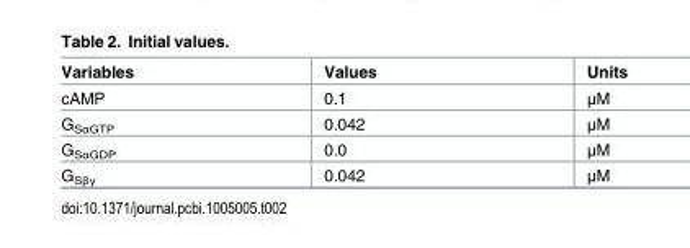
<table><thead><tr><td>Variables</td><td>Values</td><td>Units</td></tr></thead><tbody><tr><td>cAMP</td><td>0.1</td><td>μM</td></tr><tr><td>G<sub>SαGTP</sub></td><td>0.042</td><td>μM</td></tr><tr><td>G<sub>SαGDP</sub></td><td>0.0</td><td>μM</td></tr><tr><td>G<sub>Sβγ</sub></td><td>0.042</td><td>μM</td></tr></tbody></table>